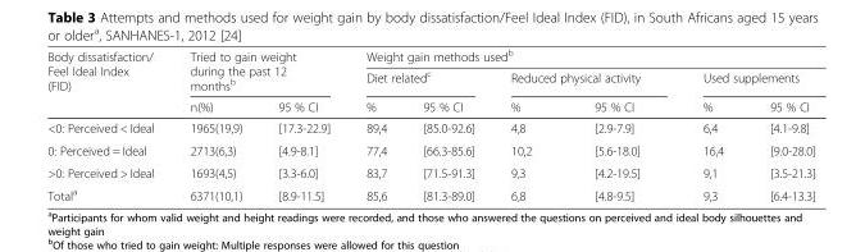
<table><thead><tr><td rowspan="3">Body dissatisfaction/ Feel Ideal Index (FID)</td><td rowspan="2" colspan="2">Tried to gain weight during the past 12 months<sup>b</sup></td><td colspan="6">Weight gain methods used<sup>b</sup></td></tr><tr><td colspan="2">Diet related<sup>c</sup></td><td colspan="2">Reduced physical activity</td><td colspan="2">Used supplements</td></tr><tr><td>n(%)</td><td>95 % CI</td><td>%</td><td>95 % CI</td><td>%</td><td>95 % CI</td><td>%</td><td>95 % CI</td></tr></thead><tbody><tr><td>&lt;0: Perceived &lt; Ideal</td><td>1965(19,9)</td><td>[17.3-22.9]</td><td>89,4</td><td>[85.0-92.6]</td><td>4,8</td><td>[2.9-7.9]</td><td>6,4</td><td>[4.1-9.8]</td></tr><tr><td>0: Perceived = Ideal</td><td>2713(6,3)</td><td>[4.9-8.1]</td><td>77,4</td><td>[66.3-85.6]</td><td>10,2</td><td>[5.6-18.0]</td><td>16,4</td><td>[9.0-28.0]</td></tr><tr><td>&gt;0: Perceived &gt; Ideal</td><td>1693(4,5)</td><td>[3.3-6.0]</td><td>83,7</td><td>[71.5-91.3]</td><td>9,3</td><td>[4.2-19.5]</td><td>9,1</td><td>[3.5-21.3]</td></tr><tr><td>Total<sup>a</sup></td><td>6371(10,1)</td><td>[8.9-11.5]</td><td>85,6</td><td>[81.3-89.0]</td><td>6,8</td><td>[4.8-9.5]</td><td>9,3</td><td>[6.4-13.3]</td></tr></tbody></table>